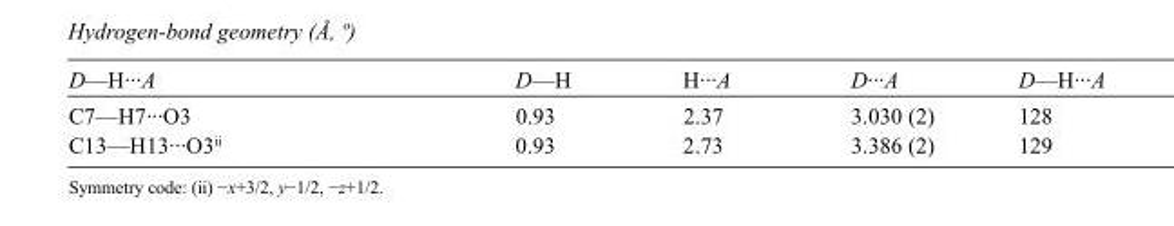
<table><tbody><tr><td>D—H···A</td><td>D—H</td><td>H···A</td><td>D···A</td><td>D—H···A</td></tr><tr><td>C7—H7···O3</td><td>0.93</td><td>2.37</td><td>3.030 (2)</td><td>128</td></tr><tr><td>C13—H13···O3<sup>ii</sup></td><td>0.93</td><td>2.73</td><td>3.386 (2)</td><td>129</td></tr></tbody></table>